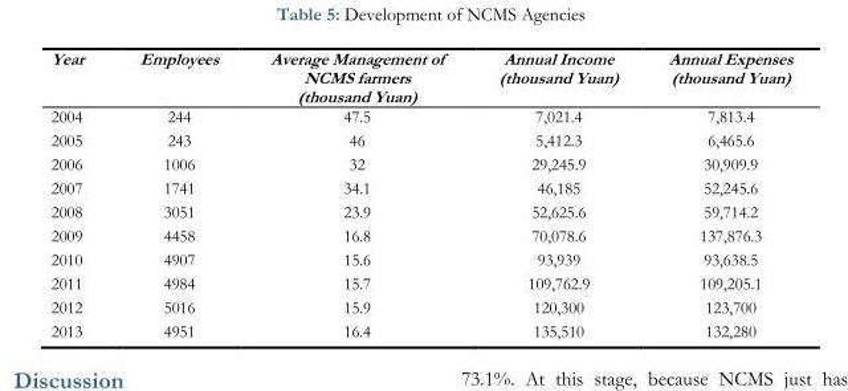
<table><thead><tr><td>Year</td><td>Employees</td><td>Average Management of NCMS farmers (thousand Yuan)</td><td>Annual Income (thousand Yuan)</td><td>Annual Expenses (thousand Yuan)</td></tr></thead><tbody><tr><td>2004</td><td>244</td><td>47.5</td><td>7,021.4</td><td>7,813.4</td></tr><tr><td>2005</td><td>243</td><td>46</td><td>5,412.3</td><td>6,465.6</td></tr><tr><td>2006</td><td>1006</td><td>32</td><td>29,245.9</td><td>30,909.9</td></tr><tr><td>2007</td><td>1741</td><td>34.1</td><td>46,185</td><td>52,245.6</td></tr><tr><td>2008</td><td>3051</td><td>23.9</td><td>52,625.6</td><td>59,714.2</td></tr><tr><td>2009</td><td>4458</td><td>16.8</td><td>70,078.6</td><td>137,876.3</td></tr><tr><td>2010</td><td>4907</td><td>15.6</td><td>93,939</td><td>93,638.5</td></tr><tr><td>2011</td><td>4984</td><td>15.7</td><td>109,762.9</td><td>109,205.1</td></tr><tr><td>2012</td><td>5016</td><td>15.9</td><td>120,300</td><td>123,700</td></tr><tr><td>2013</td><td>4951</td><td>16.4</td><td>135,510</td><td>132,280</td></tr></tbody></table>